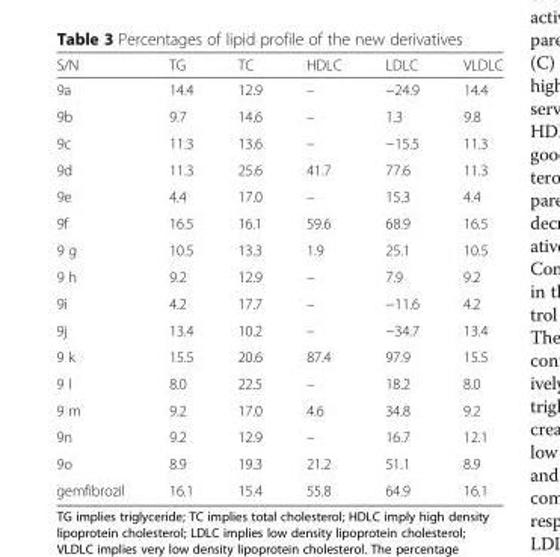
<table><thead><tr><td>S/N</td><td>TG</td><td>TC</td><td>HDLC</td><td>LDLC</td><td>VLDLC</td></tr></thead><tbody><tr><td>9a</td><td>14.4</td><td>12.9</td><td>–</td><td>−24.9</td><td>14.4</td></tr><tr><td>9b</td><td>9.7</td><td>14.6</td><td>–</td><td>1.3</td><td>9.8</td></tr><tr><td>9c</td><td>11.3</td><td>13.6</td><td>–</td><td>−15.5</td><td>11.3</td></tr><tr><td>9d</td><td>11.3</td><td>25.6</td><td>41.7</td><td>77.6</td><td>11.3</td></tr><tr><td>9e</td><td>4.4</td><td>17.0</td><td>–</td><td>15.3</td><td>4.4</td></tr><tr><td>9f</td><td>16.5</td><td>16.1</td><td>59.6</td><td>68.9</td><td>16.5</td></tr><tr><td>9 g</td><td>10.5</td><td>13.3</td><td>1.9</td><td>25.1</td><td>10.5</td></tr><tr><td>9 h</td><td>9.2</td><td>12.9</td><td>–</td><td>7.9</td><td>9.2</td></tr><tr><td>9i</td><td>4.2</td><td>17.7</td><td>–</td><td>−11.6</td><td>4.2</td></tr><tr><td>9j</td><td>13.4</td><td>10.2</td><td>–</td><td>−34.7</td><td>13.4</td></tr><tr><td>9 k</td><td>15.5</td><td>20.6</td><td>87.4</td><td>97.9</td><td>15.5</td></tr><tr><td>9 l</td><td>8.0</td><td>22.5</td><td>–</td><td>18.2</td><td>8.0</td></tr><tr><td>9 m</td><td>9.2</td><td>17.0</td><td>4.6</td><td>34.8</td><td>9.2</td></tr><tr><td>9n</td><td>9.2</td><td>12.9</td><td>–</td><td>16.7</td><td>12.1</td></tr><tr><td>9o</td><td>8.9</td><td>19.3</td><td>21.2</td><td>51.1</td><td>8.9</td></tr><tr><td>gemfibrozil</td><td>16.1</td><td>15.4</td><td>55.8</td><td>64.9</td><td>16.1</td></tr></tbody></table>